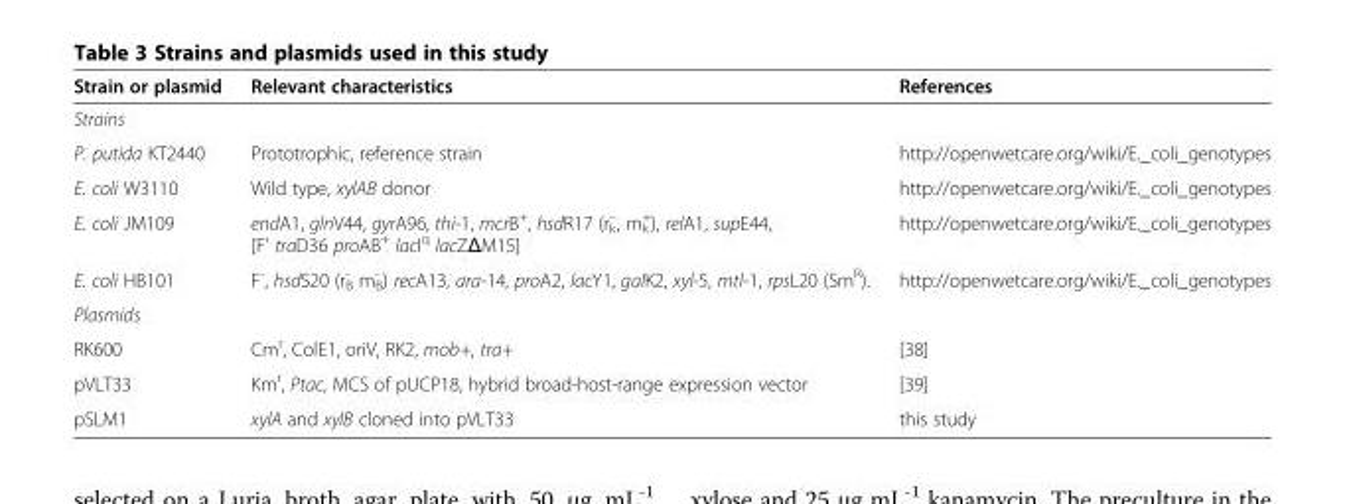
<table><thead><tr><td>Strain or plasmid</td><td>Relevant characteristics</td><td>References</td></tr></thead><tbody><tr><td colspan="3">Strains</td></tr><tr><td>P. putida KT2440</td><td>Prototrophic, reference strain</td><td>http://openwetcare.org/wiki/E._coli_genotypes</td></tr><tr><td>E. coli W3110</td><td>Wild type, xylAB donor</td><td>http://openwetcare.org/wiki/E._coli_genotypes</td></tr><tr><td>E. coli JM109</td><td>endA1, glnV44, gyrA96, thi-1, mcrB<sup>+</sup>, hsdR17 (r<sub>k</sub> <sup>–</sup>, m<sub>k</sub> <sup>+</sup>), relA1, supE44, [F&#x27; traD36 proAB<sup>+</sup> lacI<sup>q</sup> lacZΔM15]</td><td>http://openwetcare.org/wiki/E._coli_genotypes</td></tr><tr><td>E. coli HB101</td><td>F<sup>-</sup>, hsdS20 (r<sub>B</sub> <sup>-</sup> m<sub>B</sub> <sup>-</sup> ) recA13, ara-14, proA2, lacY1, galK2, xyl-5, mtl-1, rpsL20 (Sm<sup>R</sup>).</td><td>http://openwetcare.org/wiki/E._coli_genotypes</td></tr><tr><td colspan="3">Plasmids</td></tr><tr><td>RK600</td><td>Cm<sup>r</sup>, ColE1, oriV, RK2, mob+, tra+</td><td>[38]</td></tr><tr><td>pVLT33</td><td>Km<sup>r</sup>, Ptac, MCS of pUCP18, hybrid broad-host-range expression vector</td><td>[39]</td></tr><tr><td>pSLM1</td><td>xylA and xylB cloned into pVLT33</td><td>this study</td></tr></tbody></table>